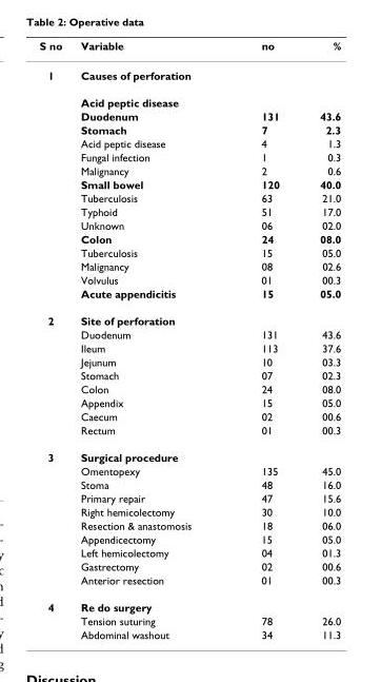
<table><thead><tr><td>S no</td><td>Variable</td><td>no</td><td>%</td></tr></thead><tbody><tr><td rowspan="16">1</td><td>Causes of perforation</td><td></td><td></td></tr><tr><td>Acid peptic disease</td><td></td><td></td></tr><tr><td>Duodenum</td><td>131</td><td>43.6</td></tr><tr><td>Stomach</td><td>7</td><td>2.3</td></tr><tr><td>Acid peptic disease</td><td>4</td><td>1.3</td></tr><tr><td>Fungal infection</td><td>1</td><td>0.3</td></tr><tr><td>Malignancy</td><td>2</td><td>0.6</td></tr><tr><td>Small bowel</td><td>120</td><td>40.0</td></tr><tr><td>Tuberculosis</td><td>63</td><td>21.0</td></tr><tr><td>Typhoid</td><td>51</td><td>17.0</td></tr><tr><td>Unknown</td><td>06</td><td>02.0</td></tr><tr><td>Colon</td><td>24</td><td>08.0</td></tr><tr><td>Tuberculosis</td><td>15</td><td>05.0</td></tr><tr><td>Malignancy</td><td>08</td><td>02.6</td></tr><tr><td>Volvulus</td><td>01</td><td>00.3</td></tr><tr><td>Acute appendicitis</td><td>15</td><td>05.0</td></tr><tr><td rowspan="9">2</td><td>Site of perforation</td><td></td><td></td></tr><tr><td>Duodenum</td><td>131</td><td>43.6</td></tr><tr><td>Ileum</td><td>113</td><td>37.6</td></tr><tr><td>Jejunum</td><td>10</td><td>03.3</td></tr><tr><td>Stomach</td><td>07</td><td>02.3</td></tr><tr><td>Colon</td><td>24</td><td>08.0</td></tr><tr><td>Appendix</td><td>15</td><td>05.0</td></tr><tr><td>Caecum</td><td>02</td><td>00.6</td></tr><tr><td>Rectum</td><td>01</td><td>00.3</td></tr><tr><td rowspan="10">3</td><td>Surgical procedure</td><td></td><td></td></tr><tr><td>Omentopexy</td><td>135</td><td>45.0</td></tr><tr><td>Stoma</td><td>48</td><td>16.0</td></tr><tr><td>Primary repair</td><td>47</td><td>15.6</td></tr><tr><td>Right hemicolectomy</td><td>30</td><td>10.0</td></tr><tr><td>Resection &amp; anastomosis</td><td>18</td><td>06.0</td></tr><tr><td>Appendicectomy</td><td>15</td><td>05.0</td></tr><tr><td>Left hemicolectomy</td><td>04</td><td>01.3</td></tr><tr><td>Gastrectomy</td><td>02</td><td>00.6</td></tr><tr><td>Anterior resection</td><td>01</td><td>00.3</td></tr><tr><td rowspan="3">4</td><td>Re do surgery</td><td></td><td></td></tr><tr><td>Tension suturing</td><td>78</td><td>26.0</td></tr><tr><td>Abdominal washout</td><td>34</td><td>11.3</td></tr></tbody></table>